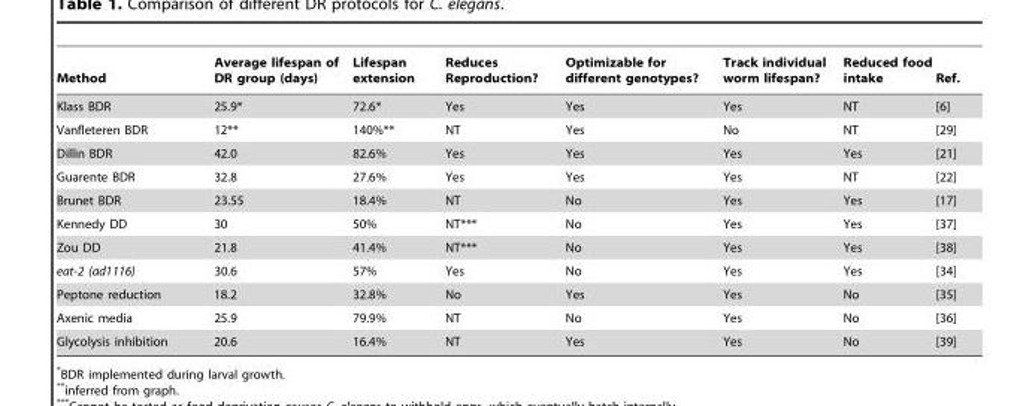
<table><thead><tr><td>Method</td><td>Average lifespan of DR group (days)</td><td>Lifespan extension</td><td>Reduces Reproduction?</td><td>Optimizable for different genotypes?</td><td>Track individual worm lifespan?</td><td>Reduced food intake</td><td>Ref.</td></tr></thead><tbody><tr><td>Klass BDR</td><td>25.9*</td><td>72.6*</td><td>Yes</td><td>Yes</td><td>Yes</td><td>NT</td><td>[6]</td></tr><tr><td>Vanfleteren BDR</td><td>12**</td><td>140%**</td><td>NT</td><td>Yes</td><td>No</td><td>NT</td><td>[29]</td></tr><tr><td>Dillin BDR</td><td>42.0</td><td>82.6%</td><td>Yes</td><td>Yes</td><td>Yes</td><td>Yes</td><td>[21]</td></tr><tr><td>Guarente BDR</td><td>32.8</td><td>27.6%</td><td>Yes</td><td>Yes</td><td>Yes</td><td>NT</td><td>[22]</td></tr><tr><td>Brunet BDR</td><td>23.55</td><td>18.4%</td><td>NT</td><td>No</td><td>Yes</td><td>Yes</td><td>[17]</td></tr><tr><td>Kennedy DD</td><td>30</td><td>50%</td><td>NT***</td><td>No</td><td>Yes</td><td>Yes</td><td>[37]</td></tr><tr><td>Zou DD</td><td>21.8</td><td>41.4%</td><td>NT***</td><td>No</td><td>Yes</td><td>Yes</td><td>[38]</td></tr><tr><td>eat-2 (ad1116)</td><td>30.6</td><td>57%</td><td>Yes</td><td>No</td><td>Yes</td><td>Yes</td><td>[34]</td></tr><tr><td>Peptone reduction</td><td>18.2</td><td>32.8%</td><td>No</td><td>Yes</td><td>Yes</td><td>No</td><td>[35]</td></tr><tr><td>Axenic media</td><td>25.9</td><td>79.9%</td><td>NT</td><td>No</td><td>Yes</td><td>No</td><td>[36]</td></tr><tr><td>Glycolysis inhibition</td><td>20.6</td><td>16.4%</td><td>NT</td><td>Yes</td><td>Yes</td><td>No</td><td>[39]</td></tr></tbody></table>